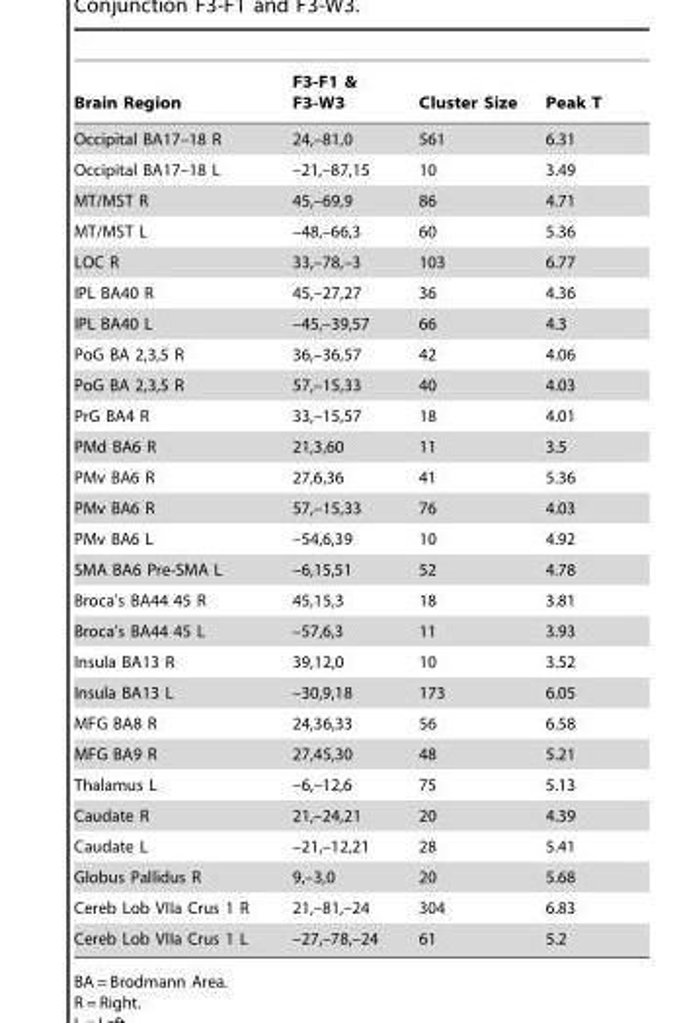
<table><thead><tr><td>Brain Region</td><td>F3-F1 &amp; F3-W3</td><td>Cluster Size</td><td>Peak T</td></tr></thead><tbody><tr><td>Occipital BA17–18 R</td><td>24,–81,0</td><td>561</td><td>6.31</td></tr><tr><td>Occipital BA17–18 L</td><td>–21,–87,15</td><td>10</td><td>3.49</td></tr><tr><td>MT/MST R</td><td>45,–69,9</td><td>86</td><td>4.71</td></tr><tr><td>MT/MST L</td><td>–48,–66,3</td><td>60</td><td>5.36</td></tr><tr><td>LOC R</td><td>33,–78,–3</td><td>103</td><td>6.77</td></tr><tr><td>IPL BA40 R</td><td>45,–27,27</td><td>36</td><td>4.36</td></tr><tr><td>IPL BA40 L</td><td>–45,–39,57</td><td>66</td><td>4.3</td></tr><tr><td>PoG BA 2,3,5 R</td><td>36,–36,57</td><td>42</td><td>4.06</td></tr><tr><td>PoG BA 2,3,5 R</td><td>57,–15,33</td><td>40</td><td>4.03</td></tr><tr><td>PrG BA4 R</td><td>33,–15,57</td><td>18</td><td>4.01</td></tr><tr><td>PMd BA6 R</td><td>21,3,60</td><td>11</td><td>3.5</td></tr><tr><td>PMv BA6 R</td><td>27,6,36</td><td>41</td><td>5.36</td></tr><tr><td>PMv BA6 R</td><td>57,–15,33</td><td>76</td><td>4.03</td></tr><tr><td>PMv BA6 L</td><td>–54,6,39</td><td>10</td><td>4.92</td></tr><tr><td>SMA BA6 Pre-SMA L</td><td>–6,15,51</td><td>52</td><td>4.78</td></tr><tr><td>Broca’s BA44 45 R</td><td>45,15,3</td><td>18</td><td>3.81</td></tr><tr><td>Broca’s BA44 45 L</td><td>–57,6,3</td><td>11</td><td>3.93</td></tr><tr><td>Insula BA13 R</td><td>39,12,0</td><td>10</td><td>3.52</td></tr><tr><td>Insula BA13 L</td><td>–30,9,18</td><td>173</td><td>6.05</td></tr><tr><td>MFG BA8 R</td><td>24,36,33</td><td>56</td><td>6.58</td></tr><tr><td>MFG BA9 R</td><td>27,45,30</td><td>48</td><td>5.21</td></tr><tr><td>Thalamus L</td><td>–6,–12,6</td><td>75</td><td>5.13</td></tr><tr><td>Caudate R</td><td>21,–24,21</td><td>20</td><td>4.39</td></tr><tr><td>Caudate L</td><td>–21,–12,21</td><td>28</td><td>5.41</td></tr><tr><td>Globus Pallidus R</td><td>9,–3,0</td><td>20</td><td>5.68</td></tr><tr><td>Cereb Lob VIIa Crus 1 R</td><td>21,–81,–24</td><td>304</td><td>6.83</td></tr><tr><td>Cereb Lob VIIa Crus 1 L</td><td>–27,–78,–24</td><td>61</td><td>5.2</td></tr></tbody></table>